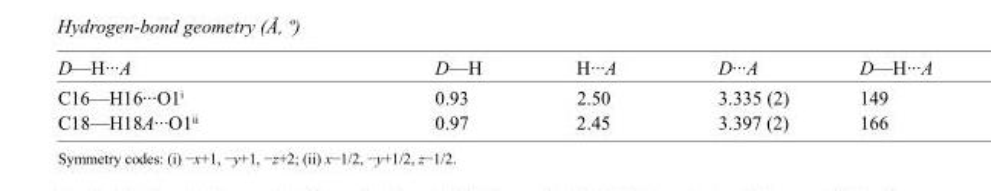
<table><tbody><tr><td>D—H···A</td><td>D—H</td><td>H···A</td><td>D···A</td><td>D—H···A</td></tr><tr><td>C16—H16···O1<sup>i</sup></td><td>0.93</td><td>2.50</td><td>3.335 (2)</td><td>149</td></tr><tr><td>C18—H18A···O1<sup>ii</sup></td><td>0.97</td><td>2.45</td><td>3.397 (2)</td><td>166</td></tr></tbody></table>